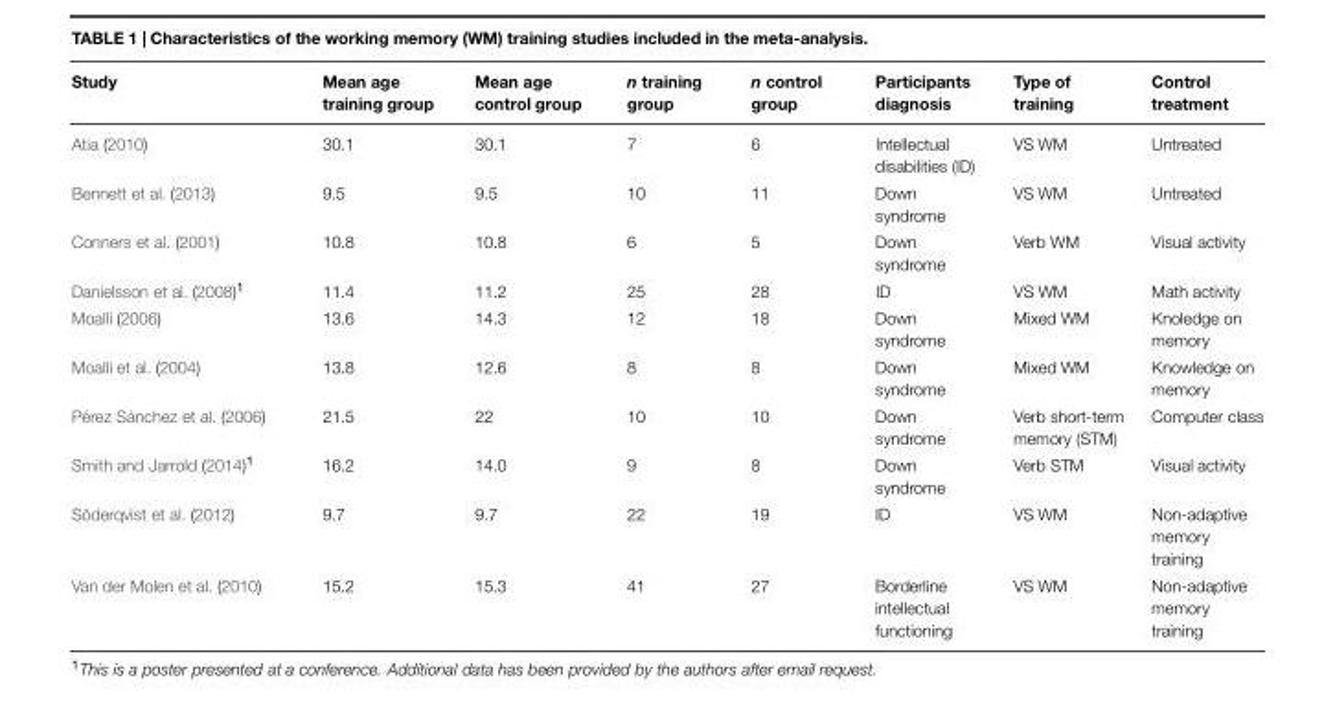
<table><thead><tr><td>Study</td><td>Mean age training group</td><td>Mean age control group</td><td>n training group</td><td>n control group</td><td>Participants diagnosis</td><td>Type of training</td><td>Control treatment</td></tr></thead><tbody><tr><td>Atia (2010)</td><td>30.1</td><td>30.1</td><td>7</td><td>6</td><td>Intellectual disabilities (ID)</td><td>VS WM</td><td>Untreated</td></tr><tr><td>Bennett et al. (2013)</td><td>9.5</td><td>9.5</td><td>10</td><td>11</td><td>Down syndrome</td><td>VS WM</td><td>Untreated</td></tr><tr><td>Conners et al. (2001)</td><td>10.8</td><td>10.8</td><td>6</td><td>5</td><td>Down syndrome</td><td>Verb WM</td><td>Visual activity</td></tr><tr><td>Danielsson et al. (2008)<sup>1</sup></td><td>11.4</td><td>11.2</td><td>25</td><td>28</td><td>ID</td><td>VS WM</td><td>Math activity</td></tr><tr><td>Moalli (2006)</td><td>13.6</td><td>14.3</td><td>12</td><td>18</td><td>Down syndrome</td><td>Mixed WM</td><td>Knoledge on memory</td></tr><tr><td>Moalli et al. (2004)</td><td>13.8</td><td>12.6</td><td>8</td><td>8</td><td>Down syndrome</td><td>Mixed WM</td><td>Knowledge on memory</td></tr><tr><td>Pérez Sánchez et al. (2006)</td><td>21.5</td><td>22</td><td>10</td><td>10</td><td>Down syndrome</td><td>Verb short-term memory (STM)</td><td>Computer class</td></tr><tr><td>Smith and Jarrold (2014)<sup>1</sup></td><td>16.2</td><td>14.0</td><td>9</td><td>8</td><td>Down syndrome</td><td>Verb STM</td><td>Visual activity</td></tr><tr><td>Söderqvist et al. (2012)</td><td>9.7</td><td>9.7</td><td>22</td><td>19</td><td>ID</td><td>VS WM</td><td>Non-adaptive memory training</td></tr><tr><td>Van der Molen et al. (2010)</td><td>15.2</td><td>15.3</td><td>41</td><td>27</td><td>Borderline intellectual functioning</td><td>VS WM</td><td>Non-adaptive memory training</td></tr></tbody></table>